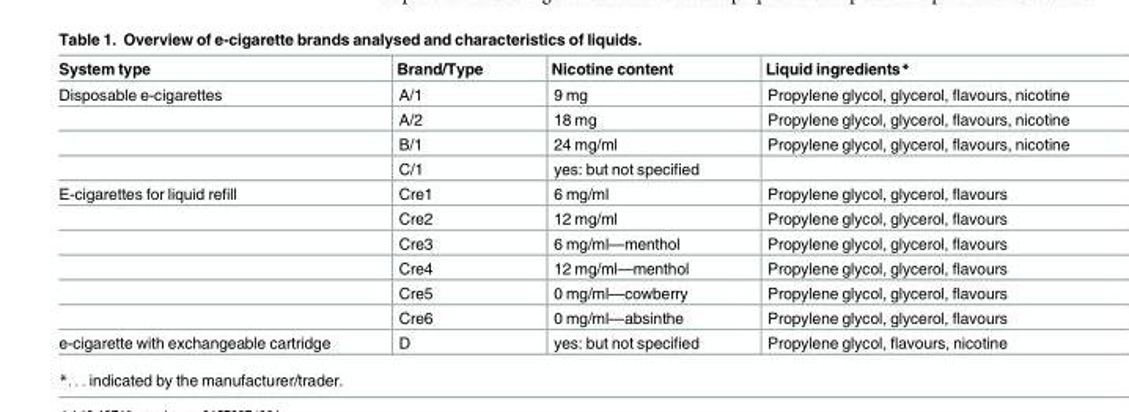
<table><thead><tr><td>System type</td><td>Brand/Type</td><td>Nicotine content</td><td>Liquid ingredients*</td></tr></thead><tbody><tr><td rowspan="4">Disposable e-cigarettes</td><td>A/1</td><td>9 mg</td><td>Propylene glycol, glycerol, flavours, nicotine</td></tr><tr><td>A/2</td><td>18 mg</td><td>Propylene glycol, glycerol, flavours, nicotine</td></tr><tr><td>B/1</td><td>24 mg/ml</td><td>Propylene glycol, glycerol, flavours, nicotine</td></tr><tr><td>C/1</td><td>yes: but not specified</td><td></td></tr><tr><td rowspan="6">E-cigarettes for liquid refill</td><td>Cre1</td><td>6 mg/ml</td><td>Propylene glycol, glycerol, flavours</td></tr><tr><td>Cre2</td><td>12 mg/ml</td><td>Propylene glycol, glycerol, flavours</td></tr><tr><td>Cre3</td><td>6 mg/ml—menthol</td><td>Propylene glycol, glycerol, flavours</td></tr><tr><td>Cre4</td><td>12 mg/ml—menthol</td><td>Propylene glycol, glycerol, flavours</td></tr><tr><td>Cre5</td><td>0 mg/ml—cowberry</td><td>Propylene glycol, glycerol, flavours</td></tr><tr><td>Cre6</td><td>0 mg/ml—absinthe</td><td>Propylene glycol, glycerol, flavours</td></tr><tr><td>e-cigarette with exchangeable cartridge</td><td>D</td><td>yes: but not specified</td><td>Propylene glycol, flavours, nicotine</td></tr></tbody></table>